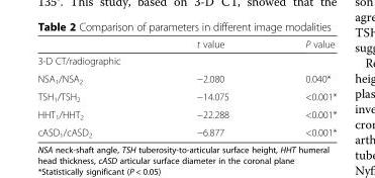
<table><thead><tr><td></td><td>t value</td><td>P value</td></tr></thead><tbody><tr><td colspan="3">3-D CT/radiographic</td></tr><tr><td>NSA<sub>1</sub>/NSA<sub>2</sub></td><td>−2.080</td><td>0.040*</td></tr><tr><td>TSH<sub>1</sub>/TSH<sub>2</sub></td><td>−14.075</td><td>&lt;0.001*</td></tr><tr><td>HHT<sub>1</sub>/HHT<sub>2</sub></td><td>−22.288</td><td>&lt;0.001*</td></tr><tr><td>cASD<sub>1</sub>/cASD<sub>2</sub></td><td>−6.877</td><td>&lt;0.001*</td></tr></tbody></table>